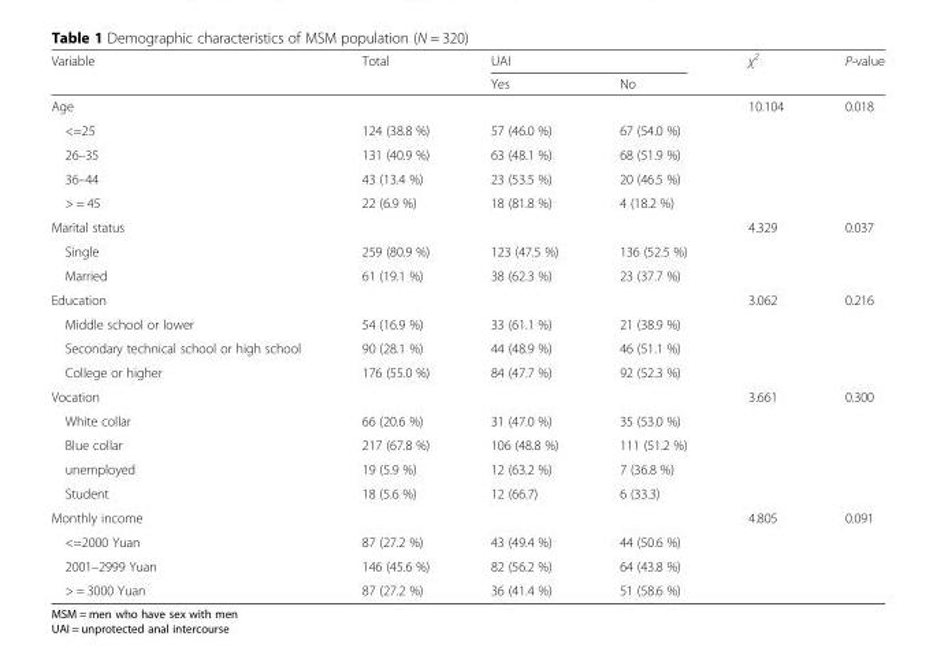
<table><thead><tr><td rowspan="2">Variable</td><td rowspan="2">Total</td><td colspan="2">UAI</td><td rowspan="2">χ<sup>2</sup></td><td rowspan="2">P-value</td></tr><tr><td>Yes</td><td>No</td></tr></thead><tbody><tr><td>Age</td><td></td><td></td><td></td><td>10.104</td><td>0.018</td></tr><tr><td>&lt;=25</td><td>124 (38.8 %)</td><td>57 (46.0 %)</td><td>67 (54.0 %)</td><td></td><td></td></tr><tr><td>26–35</td><td>131 (40.9 %)</td><td>63 (48.1 %)</td><td>68 (51.9 %)</td><td></td><td></td></tr><tr><td>36–44</td><td>43 (13.4 %)</td><td>23 (53.5 %)</td><td>20 (46.5 %)</td><td></td><td></td></tr><tr><td>&gt; = 45</td><td>22 (6.9 %)</td><td>18 (81.8 %)</td><td>4 (18.2 %)</td><td></td><td></td></tr><tr><td>Marital status</td><td></td><td></td><td></td><td>4.329</td><td>0.037</td></tr><tr><td>Single</td><td>259 (80.9 %)</td><td>123 (47.5 %)</td><td>136 (52.5 %)</td><td></td><td></td></tr><tr><td>Married</td><td>61 (19.1 %)</td><td>38 (62.3 %)</td><td>23 (37.7 %)</td><td></td><td></td></tr><tr><td>Education</td><td></td><td></td><td></td><td>3.062</td><td>0.216</td></tr><tr><td>Middle school or lower</td><td>54 (16.9 %)</td><td>33 (61.1 %)</td><td>21 (38.9 %)</td><td></td><td></td></tr><tr><td>Secondary technical school or high school</td><td>90 (28.1 %)</td><td>44 (48.9 %)</td><td>46 (51.1 %)</td><td></td><td></td></tr><tr><td>College or higher</td><td>176 (55.0 %)</td><td>84 (47.7 %)</td><td>92 (52.3 %)</td><td></td><td></td></tr><tr><td>Vocation</td><td></td><td></td><td></td><td>3.661</td><td>0.300</td></tr><tr><td>White collar</td><td>66 (20.6 %)</td><td>31 (47.0 %)</td><td>35 (53.0 %)</td><td></td><td></td></tr><tr><td>Blue collar</td><td>217 (67.8 %)</td><td>106 (48.8 %)</td><td>111 (51.2 %)</td><td></td><td></td></tr><tr><td>unemployed</td><td>19 (5.9 %)</td><td>12 (63.2 %)</td><td>7 (36.8 %)</td><td></td><td></td></tr><tr><td>Student</td><td>18 (5.6 %)</td><td>12 (66.7)</td><td>6 (33.3)</td><td></td><td></td></tr><tr><td>Monthly income</td><td></td><td></td><td></td><td>4.805</td><td>0.091</td></tr><tr><td>&lt;=2000 Yuan</td><td>87 (27.2 %)</td><td>43 (49.4 %)</td><td>44 (50.6 %)</td><td></td><td></td></tr><tr><td>2001–2999 Yuan</td><td>146 (45.6 %)</td><td>82 (56.2 %)</td><td>64 (43.8 %)</td><td></td><td></td></tr><tr><td>&gt; = 3000 Yuan</td><td>87 (27.2 %)</td><td>36 (41.4 %)</td><td>51 (58.6 %)</td><td></td><td></td></tr></tbody></table>